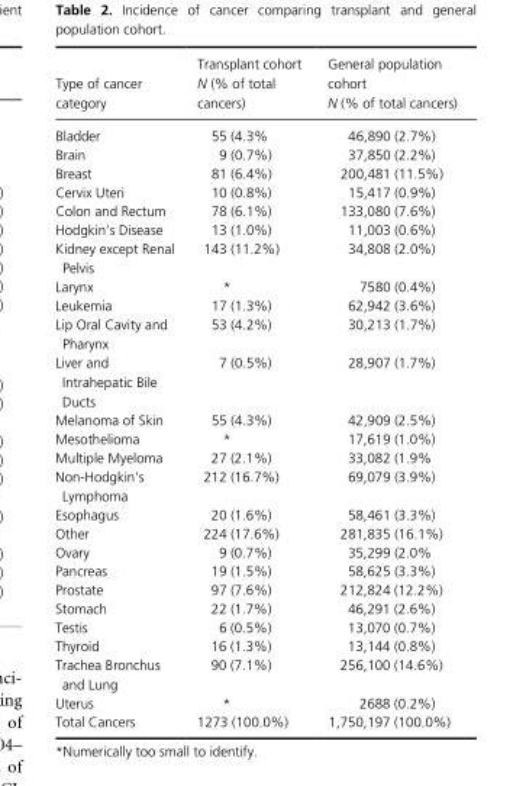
<table><thead><tr><td>Type of cancer category</td><td>Transplant cohort N (% of total cancers)</td><td>General population cohort N (% of total cancers)</td></tr></thead><tbody><tr><td>Bladder</td><td>55 (4.3%</td><td>46,890 (2.7%)</td></tr><tr><td>Brain</td><td>9 (0.7%)</td><td>37,850 (2.2%)</td></tr><tr><td>Breast</td><td>81 (6.4%)</td><td>200,481 (11.5%)</td></tr><tr><td>Cervix Uteri</td><td>10 (0.8%)</td><td>15,417 (0.9%)</td></tr><tr><td>Colon and Rectum</td><td>78 (6.1%)</td><td>133,080 (7.6%)</td></tr><tr><td>Hodgkin’s Disease</td><td>13 (1.0%)</td><td>11,003 (0.6%)</td></tr><tr><td>Kidney except Renal Pelvis</td><td>143 (11.2%)</td><td>34,808 (2.0%)</td></tr><tr><td>Larynx</td><td>*</td><td>7580 (0.4%)</td></tr><tr><td>Leukemia</td><td>17 (1.3%)</td><td>62,942 (3.6%)</td></tr><tr><td>Lip Oral Cavity and Pharynx</td><td>53 (4.2%)</td><td>30,213 (1.7%)</td></tr><tr><td>Liver and Intrahepatic Bile Ducts</td><td>7 (0.5%)</td><td>28,907 (1.7%)</td></tr><tr><td>Melanoma of Skin</td><td>55 (4.3%)</td><td>42,909 (2.5%)</td></tr><tr><td>Mesothelioma</td><td>*</td><td>17,619 (1.0%)</td></tr><tr><td>Multiple Myeloma</td><td>27 (2.1%)</td><td>33,082 (1.9%</td></tr><tr><td>Non- Hodgkin’s Lymphoma</td><td>212 (16.7%)</td><td>69,079 (3.9%)</td></tr><tr><td>Esophagus</td><td>20 (1.6%)</td><td>58,461 (3.3%)</td></tr><tr><td>Other</td><td>224 (17.6%)</td><td>281,835 (16.1%)</td></tr><tr><td>Ovary</td><td>9 (0.7%)</td><td>35,299 (2.0%</td></tr><tr><td>Pancreas</td><td>19 (1.5%)</td><td>58,625 (3.3%)</td></tr><tr><td>Prostate</td><td>97 (7.6%)</td><td>212,824 (12.2%)</td></tr><tr><td>Stomach</td><td>22 (1.7%)</td><td>46,291 (2.6%)</td></tr><tr><td>Testis</td><td>6 (0.5%)</td><td>13,070 (0.7%)</td></tr><tr><td>Thyroid</td><td>16 (1.3%)</td><td>13,144 (0.8%)</td></tr><tr><td>Trachea Bronchus and Lung</td><td>90 (7.1%)</td><td>256,100 (14.6%)</td></tr><tr><td>Uterus</td><td>*</td><td>2688 (0.2%)</td></tr><tr><td>Total Cancers</td><td>1273 (100.0%)</td><td>1,750,197 (100.0%)</td></tr></tbody></table>